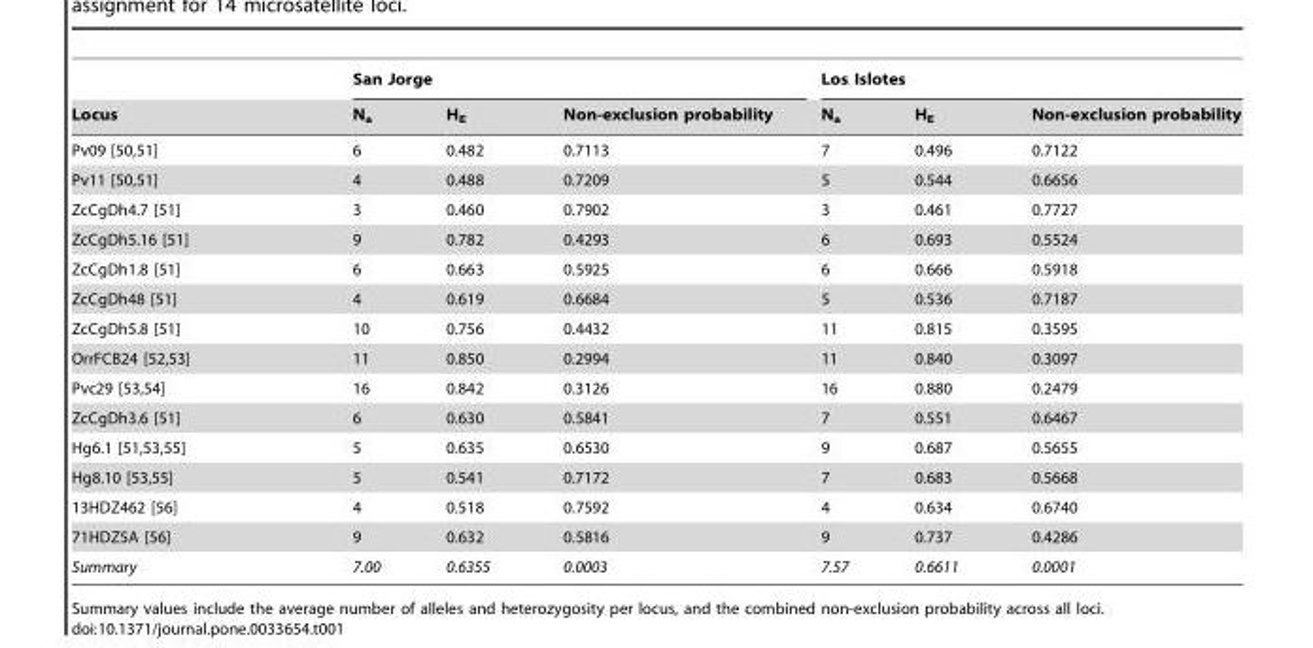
<table><thead><tr><td rowspan="2">Locus</td><td colspan="3">San Jorge</td><td colspan="3">Los Islotes</td></tr><tr><td>N<sub>a</sub></td><td>H<sub>E</sub></td><td>Non-exclusion probability</td><td>N<sub>a</sub></td><td>H<sub>E</sub></td><td>Non-exclusion probability</td></tr></thead><tbody><tr><td>Pv09 [50,51]</td><td>6</td><td>0.482</td><td>0.7113</td><td>7</td><td>0.496</td><td>0.7122</td></tr><tr><td>Pv11 [50,51]</td><td>4</td><td>0.488</td><td>0.7209</td><td>5</td><td>0.544</td><td>0.6656</td></tr><tr><td>ZcCgDh4.7 [51]</td><td>3</td><td>0.460</td><td>0.7902</td><td>3</td><td>0.461</td><td>0.7727</td></tr><tr><td>ZcCgDh5.16 [51]</td><td>9</td><td>0.782</td><td>0.4293</td><td>6</td><td>0.693</td><td>0.5524</td></tr><tr><td>ZcCgDh1.8 [51]</td><td>6</td><td>0.663</td><td>0.5925</td><td>6</td><td>0.666</td><td>0.5918</td></tr><tr><td>ZcCgDh48 [51]</td><td>4</td><td>0.619</td><td>0.6684</td><td>5</td><td>0.536</td><td>0.7187</td></tr><tr><td>ZcCgDh5.8 [51]</td><td>10</td><td>0.756</td><td>0.4432</td><td>11</td><td>0.815</td><td>0.3595</td></tr><tr><td>OrrFCB24 [52,53]</td><td>11</td><td>0.850</td><td>0.2994</td><td>11</td><td>0.840</td><td>0.3097</td></tr><tr><td>Pvc29 [53,54]</td><td>16</td><td>0.842</td><td>0.3126</td><td>16</td><td>0.880</td><td>0.2479</td></tr><tr><td>ZcCgDh3.6 [51]</td><td>6</td><td>0.630</td><td>0.5841</td><td>7</td><td>0.551</td><td>0.6467</td></tr><tr><td>Hg6.1 [51,53,55]</td><td>5</td><td>0.635</td><td>0.6530</td><td>9</td><td>0.687</td><td>0.5655</td></tr><tr><td>Hg8.10 [53,55]</td><td>5</td><td>0.541</td><td>0.7172</td><td>7</td><td>0.683</td><td>0.5668</td></tr><tr><td>13HDZ462 [56]</td><td>4</td><td>0.518</td><td>0.7592</td><td>4</td><td>0.634</td><td>0.6740</td></tr><tr><td>71HDZ5A [56]</td><td>9</td><td>0.632</td><td>0.5816</td><td>9</td><td>0.737</td><td>0.4286</td></tr><tr><td>Summary</td><td>7.00</td><td>0.6355</td><td>0.0003</td><td>7.57</td><td>0.6611</td><td>0.0001</td></tr></tbody></table>